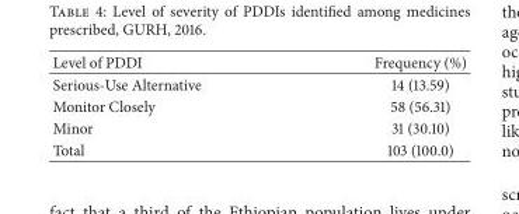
<table><thead><tr><td>Level of PDDI</td><td>Frequency (%)</td></tr></thead><tbody><tr><td>Serious-Use Alternative</td><td>14 (13.59)</td></tr><tr><td>Monitor Closely</td><td>58 (56.31)</td></tr><tr><td>Minor</td><td>31 (30.10)</td></tr><tr><td>Total</td><td>103 (100.0)</td></tr></tbody></table>